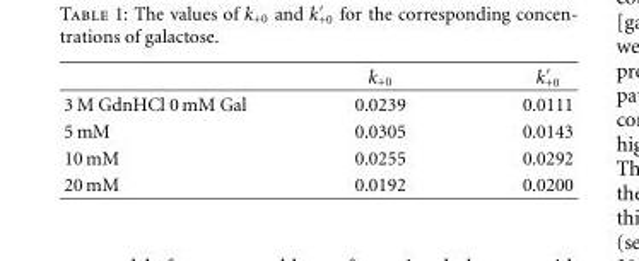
<table><thead><tr><td></td><td>k<sub>+0</sub></td><td>k′ +0</td></tr></thead><tbody><tr><td>3 M GdnHCl 0 mM Gal</td><td>0.0239</td><td>0.0111</td></tr><tr><td>5 mM</td><td>0.0305</td><td>0.0143</td></tr><tr><td>10 mM</td><td>0.0255</td><td>0.0292</td></tr><tr><td>20 mM</td><td>0.0192</td><td>0.0200</td></tr></tbody></table>